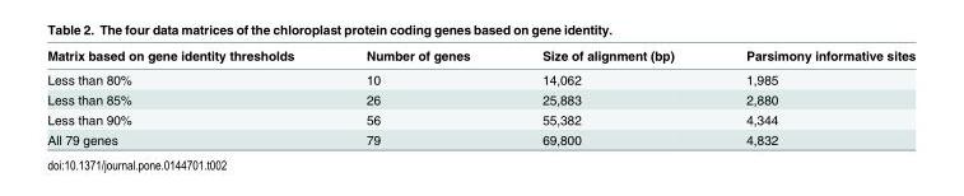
<table><thead><tr><td>Matrix based on gene identity thresholds</td><td>Number of genes</td><td>Size of alignment (bp)</td><td>Parsimony informative sites</td></tr></thead><tbody><tr><td>Less than 80%</td><td>10</td><td>14,062</td><td>1,985</td></tr><tr><td>Less than 85%</td><td>26</td><td>25,883</td><td>2,880</td></tr><tr><td>Less than 90%</td><td>56</td><td>55,382</td><td>4,344</td></tr><tr><td>All 79 genes</td><td>79</td><td>69,800</td><td>4,832</td></tr></tbody></table>